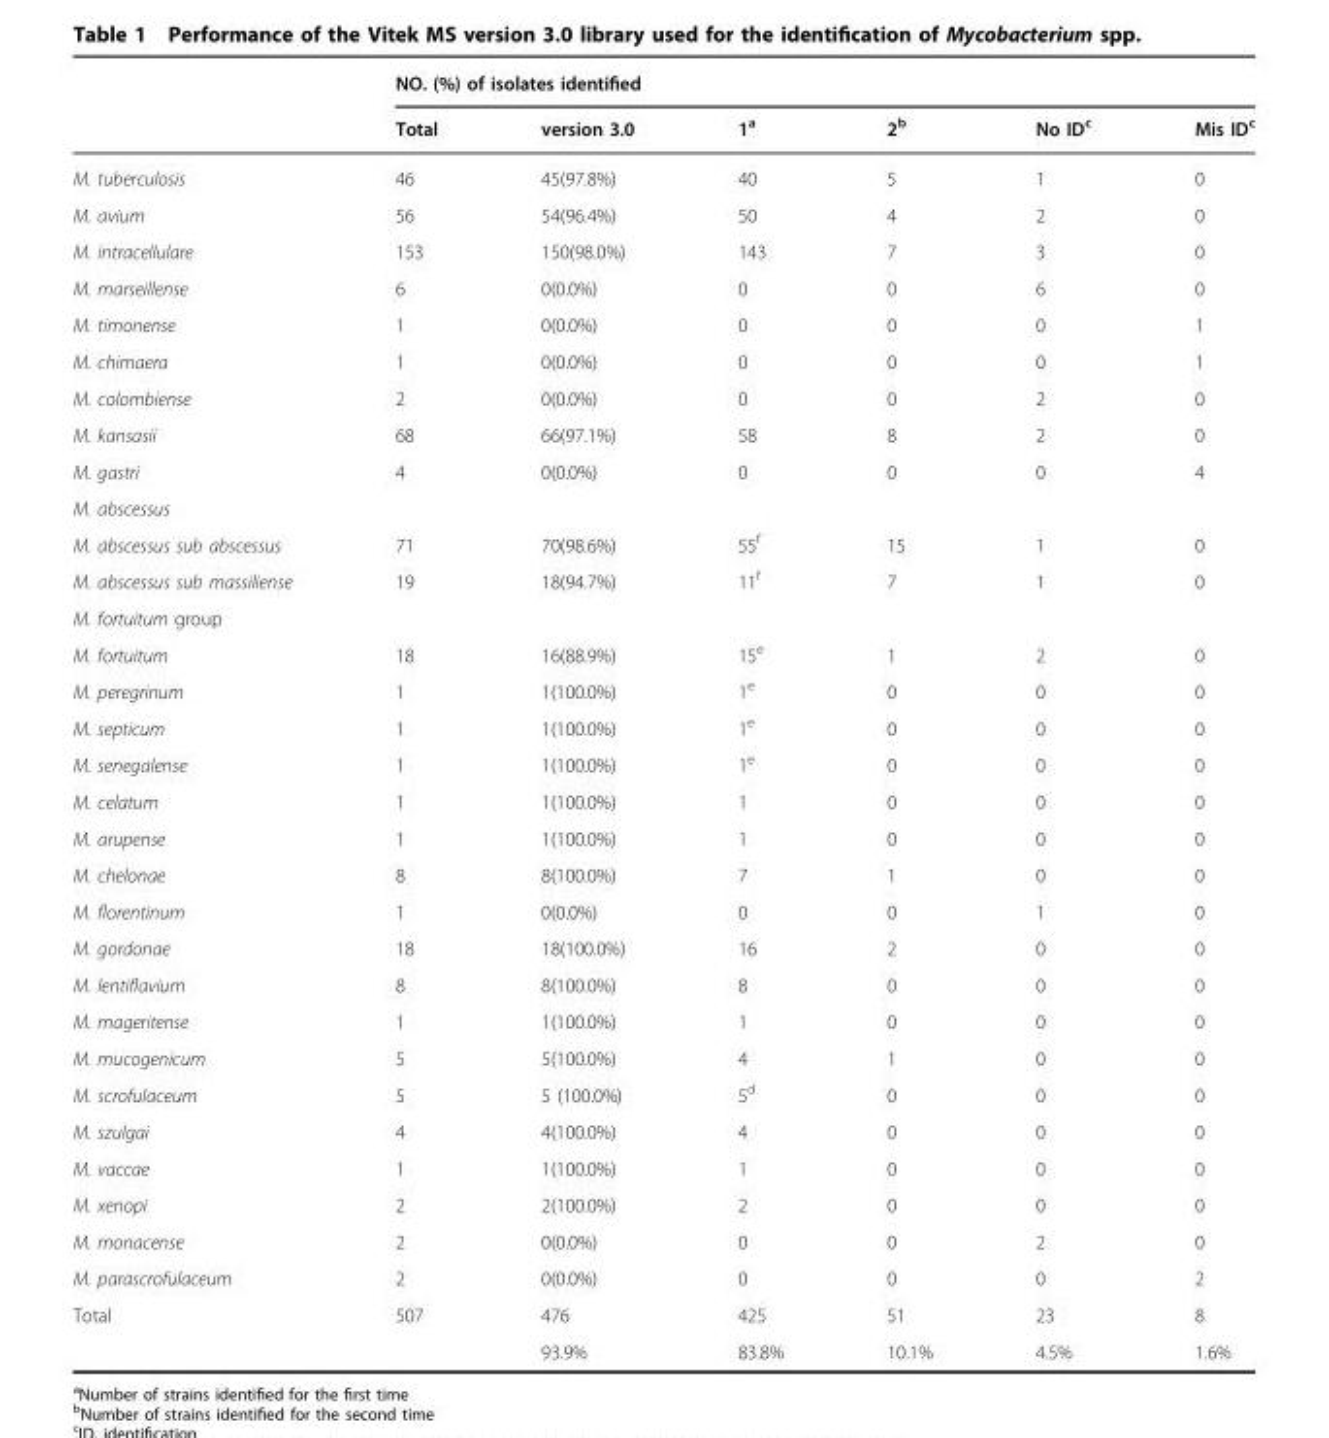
<table><thead><tr><td rowspan="2"></td><td colspan="6">NO. (%) of isolates identified</td></tr><tr><td>Total</td><td>version 3.0</td><td>1<sup>a</sup></td><td>2<sup>b</sup></td><td>No ID<sup>c</sup></td><td>Mis ID<sup>c</sup></td></tr></thead><tbody><tr><td>M. tuberculosis</td><td>46</td><td>45(97.8%)</td><td>40</td><td>5</td><td>1</td><td>0</td></tr><tr><td>M. avium</td><td>56</td><td>54(96.4%)</td><td>50</td><td>4</td><td>2</td><td>0</td></tr><tr><td>M. intracellulare</td><td>153</td><td>150(98.0%)</td><td>143</td><td>7</td><td>3</td><td>0</td></tr><tr><td>M. marseillense</td><td>6</td><td>0(0.0%)</td><td>0</td><td>0</td><td>6</td><td>0</td></tr><tr><td>M. timonense</td><td>1</td><td>0(0.0%)</td><td>0</td><td>0</td><td>0</td><td>1</td></tr><tr><td>M. chimaera</td><td>1</td><td>0(0.0%)</td><td>0</td><td>0</td><td>0</td><td>1</td></tr><tr><td>M. colombiense</td><td>2</td><td>0(0.0%)</td><td>0</td><td>0</td><td>2</td><td>0</td></tr><tr><td>M. kansasii</td><td>68</td><td>66(97.1%)</td><td>58</td><td>8</td><td>2</td><td>0</td></tr><tr><td>M. gastri</td><td>4</td><td>0(0.0%)</td><td>0</td><td>0</td><td>0</td><td>4</td></tr><tr><td colspan="7">M. abscessus</td></tr><tr><td>M. abscessus sub abscessus</td><td>71</td><td>70(98.6%)</td><td>55<sup>f</sup></td><td>15</td><td>1</td><td>0</td></tr><tr><td>M. abscessus sub massiliense</td><td>19</td><td>18(94.7%)</td><td>11<sup>f</sup></td><td>7</td><td>1</td><td>0</td></tr><tr><td colspan="7">M. fortuitum group</td></tr><tr><td>M. fortuitum</td><td>18</td><td>16(88.9%)</td><td>15<sup>e</sup></td><td>1</td><td>2</td><td>0</td></tr><tr><td>M. peregrinum</td><td>1</td><td>1(100.0%)</td><td>1<sup>e</sup></td><td>0</td><td>0</td><td>0</td></tr><tr><td>M. septicum</td><td>1</td><td>1(100.0%)</td><td>1<sup>e</sup></td><td>0</td><td>0</td><td>0</td></tr><tr><td>M. senegalense</td><td>1</td><td>1(100.0%)</td><td>1<sup>e</sup></td><td>0</td><td>0</td><td>0</td></tr><tr><td>M. celatum</td><td>1</td><td>1(100.0%)</td><td>1</td><td>0</td><td>0</td><td>0</td></tr><tr><td>M. arupense</td><td>1</td><td>1(100.0%)</td><td>1</td><td>0</td><td>0</td><td>0</td></tr><tr><td>M. chelonae</td><td>8</td><td>8(100.0%)</td><td>7</td><td>1</td><td>0</td><td>0</td></tr><tr><td>M. florentinum</td><td>1</td><td>0(0.0%)</td><td>0</td><td>0</td><td>1</td><td>0</td></tr><tr><td>M. gordonae</td><td>18</td><td>18(100.0%)</td><td>16</td><td>2</td><td>0</td><td>0</td></tr><tr><td>M. lentiflavium</td><td>8</td><td>8(100.0%)</td><td>8</td><td>0</td><td>0</td><td>0</td></tr><tr><td>M. mageritense</td><td>1</td><td>1(100.0%)</td><td>1</td><td>0</td><td>0</td><td>0</td></tr><tr><td>M. mucogenicum</td><td>5</td><td>5(100.0%)</td><td>4</td><td>1</td><td>0</td><td>0</td></tr><tr><td>M. scrofulaceum</td><td>5</td><td>5 (100.0%)</td><td>5<sup>d</sup></td><td>0</td><td>0</td><td>0</td></tr><tr><td>M. szulgai</td><td>4</td><td>4(100.0%)</td><td>4</td><td>0</td><td>0</td><td>0</td></tr><tr><td>M. vaccae</td><td>1</td><td>1(100.0%)</td><td>1</td><td>0</td><td>0</td><td>0</td></tr><tr><td>M. xenopi</td><td>2</td><td>2(100.0%)</td><td>2</td><td>0</td><td>0</td><td>0</td></tr><tr><td>M. monacense</td><td>2</td><td>0(0.0%)</td><td>0</td><td>0</td><td>2</td><td>0</td></tr><tr><td>M. parascrofulaceum</td><td>2</td><td>0(0.0%)</td><td>0</td><td>0</td><td>0</td><td>2</td></tr><tr><td>Total</td><td>507</td><td>476</td><td>425</td><td>51</td><td>23</td><td>8</td></tr><tr><td colspan="2"></td><td>93.9%</td><td>83.8%</td><td>10.1%</td><td>4.5%</td><td>1.6%</td></tr></tbody></table>